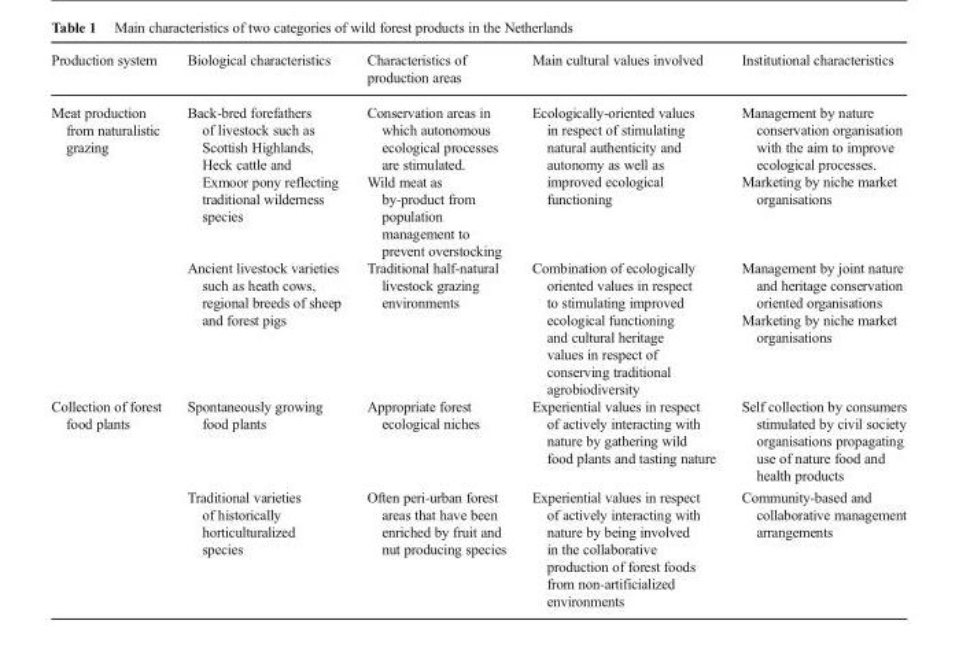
<table><thead><tr><td>Production system</td><td>Biological characteristics</td><td>Characteristics of production areas</td><td>Main cultural values involved</td><td>Institutional characteristics</td></tr></thead><tbody><tr><td rowspan="2">Meat production from naturalistic grazing</td><td>Back-bred forefathers of livestock such as Scottish Highlands, Heck cattle and Exmoor pony reflecting traditional wilderness species</td><td>Conservation areas in which autonomous ecological processes are stimulated. Wild meat as by-product from population management to prevent overstocking</td><td>Ecologically-oriented values in respect of stimulating natural authenticity and autonomy as well as improved ecological functioning</td><td>Management by nature conservation organisation with the aim to improve ecological processes. Marketing by niche market organisations</td></tr><tr><td>Ancient livestock varieties such as heath cows, regional breeds of sheep and forest pigs</td><td>Traditional half-natural livestock grazing environments</td><td>Combination of ecologically oriented values in respect to stimulating improved ecological functioning and cultural heritage values in respect of conserving traditional agrobiodiversity</td><td>Management by joint nature and heritage conservation oriented organisations Marketing by niche market organisations</td></tr><tr><td rowspan="2">Collection of forest food plants</td><td>Spontaneously growing food plants</td><td>Appropriate forest ecological niches</td><td>Experiential values in respect of actively interacting with nature by gathering wild food plants and tasting nature</td><td>Self collection by consumers stimulated by civil society organisations propagating use of nature food and health products</td></tr><tr><td>Traditional varieties of historically horticulturalized species</td><td>Often peri-urban forest areas that have been enriched by fruit and nut producing species</td><td>Experiential values in respect of actively interacting with nature by being involved in the collaborative production of forest foods from non-artificialized environments</td><td>Community-based and collaborative management arrangements</td></tr></tbody></table>